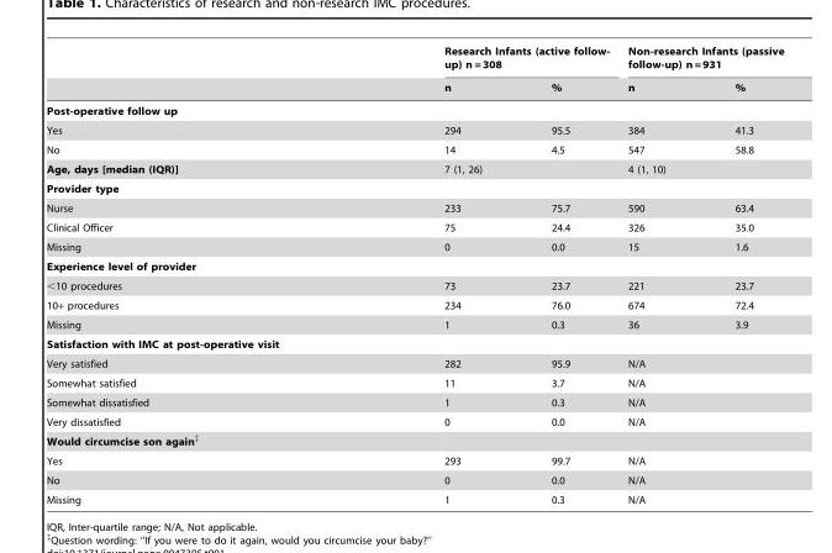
<table><thead><tr><td rowspan="2"></td><td colspan="2">Research Infants (active follow- up) n = 308</td><td colspan="2">Non-research Infants (passive follow-up) n = 931</td></tr><tr><td>n</td><td>%</td><td>n</td><td>%</td></tr></thead><tbody><tr><td colspan="5">Post-operative follow up</td></tr><tr><td>Yes</td><td>294</td><td>95.5</td><td>384</td><td>41.3</td></tr><tr><td>No</td><td>14</td><td>4.5</td><td>547</td><td>58.8</td></tr><tr><td>Age, days [median (IQR)]</td><td colspan="2">7 (1, 26)</td><td colspan="2">4 (1, 10)</td></tr><tr><td colspan="5">Provider type</td></tr><tr><td>Nurse</td><td>233</td><td>75.7</td><td>590</td><td>63.4</td></tr><tr><td>Clinical Officer</td><td>75</td><td>24.4</td><td>326</td><td>35.0</td></tr><tr><td>Missing</td><td>0</td><td>0.0</td><td>15</td><td>1.6</td></tr><tr><td colspan="5">Experience level of provider</td></tr><tr><td>&lt;10 procedures</td><td>73</td><td>23.7</td><td>221</td><td>23.7</td></tr><tr><td>10+ procedures</td><td>234</td><td>76.0</td><td>674</td><td>72.4</td></tr><tr><td>Missing</td><td>1</td><td>0.3</td><td>36</td><td>3.9</td></tr><tr><td colspan="5">Satisfaction with IMC at post-operative visit</td></tr><tr><td>Very satisfied</td><td>282</td><td>95.9</td><td colspan="2">N/A</td></tr><tr><td>Somewhat satisfied</td><td>11</td><td>3.7</td><td colspan="2">N/A</td></tr><tr><td>Somewhat dissatisfied</td><td>1</td><td>0.3</td><td colspan="2">N/A</td></tr><tr><td>Very dissatisfied</td><td>0</td><td>0.0</td><td colspan="2">N/A</td></tr><tr><td colspan="5">Would circumcise son again‡</td></tr><tr><td>Yes</td><td>293</td><td>99.7</td><td colspan="2">N/A</td></tr><tr><td>No</td><td>0</td><td>0.0</td><td colspan="2">N/A</td></tr><tr><td>Missing</td><td>1</td><td>0.3</td><td colspan="2">N/A</td></tr></tbody></table>